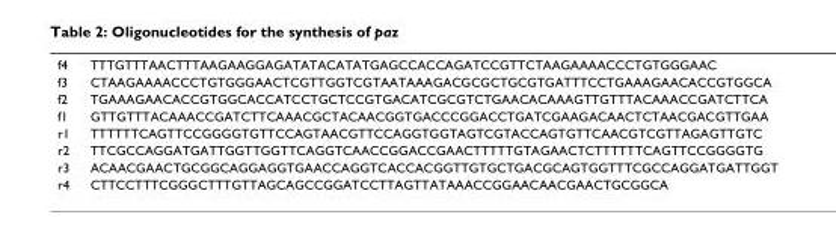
<table><tbody><tr><td>f4</td><td>TTTGTTTAACTTTAAGAAGGAGATATACATATGAGCCACCAGATCCGTTCTAAGAAAACCCTGTGGGAAC</td></tr><tr><td>f3</td><td>CTAAGAAAACCCTGTGGGAACTCGTTGGTCGTAATAAAGACGCGCTGCGTGATTTCCTGAAAGAACACCGTGGCA</td></tr><tr><td>f2</td><td>TGAAAGAACACCGTGGCACCATCCTGCTCCGTGACATCGCGTCTGAACACAAAGTTGTTTACAAACCGATCTTCA</td></tr><tr><td>f1</td><td>GTTGTTTACAAACCGATCTTCAAACGCTACAACGGTGACCCGGACCTGATCGAAGACAACTCTAACGACGTTGAA</td></tr><tr><td>r1</td><td>TTTTTTCAGTTCCGGGGTGTTCCAGTAACGTTCCAGGTGGTAGTCGTACCAGTGTTCAACGTCGTTAGAGTTGTC</td></tr><tr><td>r2</td><td>TTCGCCAGGATGATTGGTTGGTTCAGGTCAACCGGACCGAACTTTTTGTAGAACTCTTTTTTCAGTTCCGGGGTG</td></tr><tr><td>r3</td><td>ACAACGAACTGCGGCAGGAGGTGAACCAGGTCACCACGGTTGTGCTGACGCAGTGGTTTCGCCAGGATGATTGGT</td></tr><tr><td>r4</td><td>CTTCCTTTCGGGCTTTGTTAGCAGCCGGATCCTTAGTTATAAACCGGAACAACGAACTGCGGCA</td></tr></tbody></table>